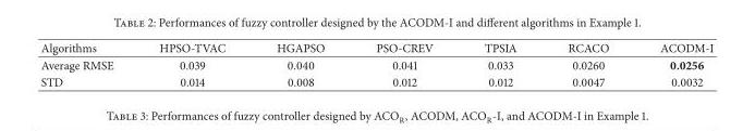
<table><thead><tr><td>Algorithms</td><td>HPSO-TVAC</td><td>HGAPSO</td><td>PSO-CREV</td><td>TPSIA</td><td>RCACO</td><td>ACODM-I</td></tr></thead><tbody><tr><td>Average RMSE</td><td>0.039</td><td>0.040</td><td>0.041</td><td>0.033</td><td>0.0260</td><td>0.0256</td></tr><tr><td>STD</td><td>0.014</td><td>0.008</td><td>0.012</td><td>0.012</td><td>0.0047</td><td>0.0032</td></tr></tbody></table>